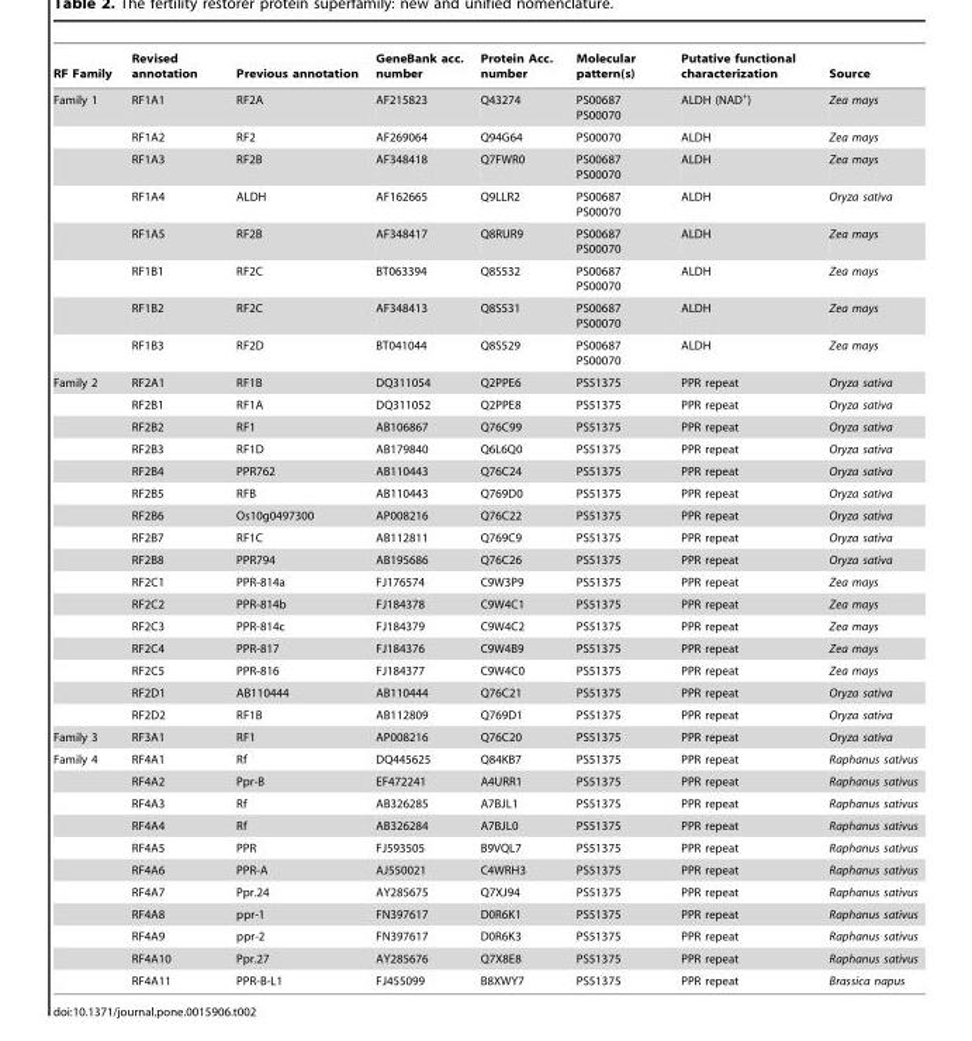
<table><thead><tr><td>RF Family</td><td>Revised annotation</td><td>Previous annotation</td><td>GeneBank acc. number</td><td>Protein Acc. number</td><td>Molecular pattern(s)</td><td>Putative functional characterization</td><td>Source</td></tr></thead><tbody><tr><td rowspan="8">Family 1</td><td>RF1A1</td><td>RF2A</td><td>AF215823</td><td>Q43274</td><td>PS00687 PS00070</td><td>ALDH (NAD<sup>+</sup>)</td><td>Zea mays</td></tr><tr><td>RF1A2</td><td>RF2</td><td>AF269064</td><td>Q94G64</td><td>PS00070</td><td>ALDH</td><td>Zea mays</td></tr><tr><td>RF1A3</td><td>RF2B</td><td>AF348418</td><td>Q7FWR0</td><td>PS00687 PS00070</td><td>ALDH</td><td>Zea mays</td></tr><tr><td>RF1A4</td><td>ALDH</td><td>AF162665</td><td>Q9LLR2</td><td>PS00687 PS00070</td><td>ALDH</td><td>Oryza sativa</td></tr><tr><td>RF1A5</td><td>RF2B</td><td>AF348417</td><td>Q8RUR9</td><td>PS00687 PS00070</td><td>ALDH</td><td>Zea mays</td></tr><tr><td>RF1B1</td><td>RF2C</td><td>BT063394</td><td>Q8S532</td><td>PS00687 PS00070</td><td>ALDH</td><td>Zea mays</td></tr><tr><td>RF1B2</td><td>RF2C</td><td>AF348413</td><td>Q8S531</td><td>PS00687 PS00070</td><td>ALDH</td><td>Zea mays</td></tr><tr><td>RF1B3</td><td>RF2D</td><td>BT041044</td><td>Q8S529</td><td>PS00687 PS00070</td><td>ALDH</td><td>Zea mays</td></tr><tr><td rowspan="16">Family 2</td><td>RF2A1</td><td>RF1B</td><td>DQ311054</td><td>Q2PPE6</td><td>PS51375</td><td>PPR repeat</td><td>Oryza sativa</td></tr><tr><td>RF2B1</td><td>RF1A</td><td>DQ311052</td><td>Q2PPE8</td><td>PS51375</td><td>PPR repeat</td><td>Oryza sativa</td></tr><tr><td>RF2B2</td><td>RF1</td><td>AB106867</td><td>Q76C99</td><td>PS51375</td><td>PPR repeat</td><td>Oryza sativa</td></tr><tr><td>RF2B3</td><td>RF1D</td><td>AB179840</td><td>Q6L6Q0</td><td>PS51375</td><td>PPR repeat</td><td>Oryza sativa</td></tr><tr><td>RF2B4</td><td>PPR762</td><td>AB110443</td><td>Q76C24</td><td>PS51375</td><td>PPR repeat</td><td>Oryza sativa</td></tr><tr><td>RF2B5</td><td>RFB</td><td>AB110443</td><td>Q769D0</td><td>PS51375</td><td>PPR repeat</td><td>Oryza sativa</td></tr><tr><td>RF2B6</td><td>Os10g0497300</td><td>AP008216</td><td>Q76C22</td><td>PS51375</td><td>PPR repeat</td><td>Oryza sativa</td></tr><tr><td>RF2B7</td><td>RF1C</td><td>AB112811</td><td>Q769C9</td><td>PS51375</td><td>PPR repeat</td><td>Oryza sativa</td></tr><tr><td>RF2B8</td><td>PPR794</td><td>AB195686</td><td>Q76C26</td><td>PS51375</td><td>PPR repeat</td><td>Oryza sativa</td></tr><tr><td>RF2C1</td><td>PPR-814a</td><td>FJ176574</td><td>C9W3P9</td><td>PS51375</td><td>PPR repeat</td><td>Zea mays</td></tr><tr><td>RF2C2</td><td>PPR-814b</td><td>FJ184378</td><td>C9W4C1</td><td>PS51375</td><td>PPR repeat</td><td>Zea mays</td></tr><tr><td>RF2C3</td><td>PPR-814c</td><td>FJ184379</td><td>C9W4C2</td><td>PS51375</td><td>PPR repeat</td><td>Zea mays</td></tr><tr><td>RF2C4</td><td>PPR-817</td><td>FJ184376</td><td>C9W4B9</td><td>PS51375</td><td>PPR repeat</td><td>Zea mays</td></tr><tr><td>RF2C5</td><td>PPR-816</td><td>FJ184377</td><td>C9W4C0</td><td>PS51375</td><td>PPR repeat</td><td>Zea mays</td></tr><tr><td>RF2D1</td><td>AB110444</td><td>AB110444</td><td>Q76C21</td><td>PS51375</td><td>PPR repeat</td><td>Oryza sativa</td></tr><tr><td>RF2D2</td><td>RF1B</td><td>AB112809</td><td>Q769D1</td><td>PS51375</td><td>PPR repeat</td><td>Oryza sativa</td></tr><tr><td>Family 3</td><td>RF3A1</td><td>RF1</td><td>AP008216</td><td>Q76C20</td><td>PS51375</td><td>PPR repeat</td><td>Oryza sativa</td></tr><tr><td rowspan="11">Family 4</td><td>RF4A1</td><td>Rf</td><td>DQ445625</td><td>Q84KB7</td><td>PS51375</td><td>PPR repeat</td><td>Raphanus sativus</td></tr><tr><td>RF4A2</td><td>Ppr-B</td><td>EF472241</td><td>A4URR1</td><td>PS51375</td><td>PPR repeat</td><td>Raphanus sativus</td></tr><tr><td>RF4A3</td><td>Rf</td><td>AB326285</td><td>A7BJL1</td><td>PS51375</td><td>PPR repeat</td><td>Raphanus sativus</td></tr><tr><td>RF4A4</td><td>Rf</td><td>AB326284</td><td>A7BJL0</td><td>PS51375</td><td>PPR repeat</td><td>Raphanus sativus</td></tr><tr><td>RF4A5</td><td>PPR</td><td>FJ593505</td><td>B9VQL7</td><td>PS51375</td><td>PPR repeat</td><td>Raphanus sativus</td></tr><tr><td>RF4A6</td><td>PPR-A</td><td>AJ550021</td><td>C4WRH3</td><td>PS51375</td><td>PPR repeat</td><td>Raphanus sativus</td></tr><tr><td>RF4A7</td><td>Ppr.24</td><td>AY285675</td><td>Q7XJ94</td><td>PS51375</td><td>PPR repeat</td><td>Raphanus sativus</td></tr><tr><td>RF4A8</td><td>ppr-1</td><td>FN397617</td><td>D0R6K1</td><td>PS51375</td><td>PPR repeat</td><td>Raphanus sativus</td></tr><tr><td>RF4A9</td><td>ppr-2</td><td>FN397617</td><td>D0R6K3</td><td>PS51375</td><td>PPR repeat</td><td>Raphanus sativus</td></tr><tr><td>RF4A10</td><td>Ppr.27</td><td>AY285676</td><td>Q7X8E8</td><td>PS51375</td><td>PPR repeat</td><td>Raphanus sativus</td></tr><tr><td>RF4A11</td><td>PPR-B-L1</td><td>FJ455099</td><td>B8XWY7</td><td>PS51375</td><td>PPR repeat</td><td>Brassica napus</td></tr></tbody></table>